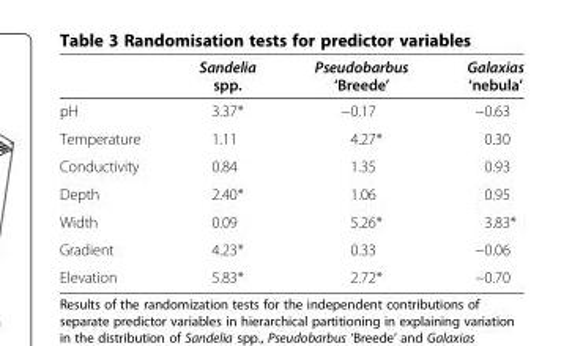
<table><thead><tr><td></td><td>Sandelia spp.</td><td>Pseudobarbus ‘Breede’</td><td>Galaxias ‘nebula’</td></tr></thead><tbody><tr><td>pH</td><td>3.37*</td><td>−0.17</td><td>−0.63</td></tr><tr><td>Temperature</td><td>1.11</td><td>4.27*</td><td>0.30</td></tr><tr><td>Conductivity</td><td>0.84</td><td>1.35</td><td>0.93</td></tr><tr><td>Depth</td><td>2.40*</td><td>1.06</td><td>0.95</td></tr><tr><td>Width</td><td>0.09</td><td>5.26*</td><td>3.83*</td></tr><tr><td>Gradient</td><td>4.23*</td><td>0.33</td><td>−0.06</td></tr><tr><td>Elevation</td><td>5.83*</td><td>2.72*</td><td>−0.70</td></tr></tbody></table>